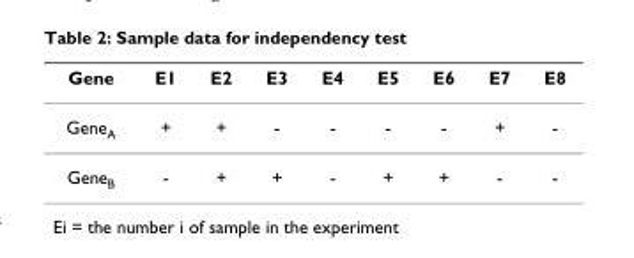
<table><thead><tr><td>Gene</td><td>E1</td><td>E2</td><td>E3</td><td>E4</td><td>E5</td><td>E6</td><td>E7</td><td>E8</td></tr></thead><tbody><tr><td>Gene<sub>A</sub></td><td>+</td><td>+</td><td>-</td><td>-</td><td>-</td><td>-</td><td>+</td><td>-</td></tr><tr><td>Gene<sub>B</sub></td><td>-</td><td>+</td><td>+</td><td>-</td><td>+</td><td>+</td><td>-</td><td>-</td></tr></tbody></table>